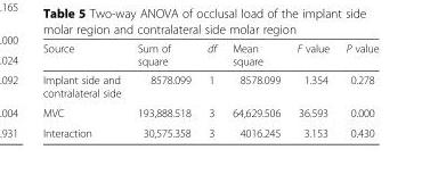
<table><thead><tr><td>Source</td><td>Sum of square</td><td>df</td><td>Mean square</td><td>F value</td><td>P value</td></tr></thead><tbody><tr><td>Implant side and contralateral side</td><td>8578.099</td><td>1</td><td>8578.099</td><td>1.354</td><td>0.278</td></tr><tr><td>MVC</td><td>193,888.518</td><td>3</td><td>64,629.506</td><td>36.593</td><td>0.000</td></tr><tr><td>Interaction</td><td>30,575.358</td><td>3</td><td>4016.245</td><td>3.153</td><td>0.430</td></tr></tbody></table>